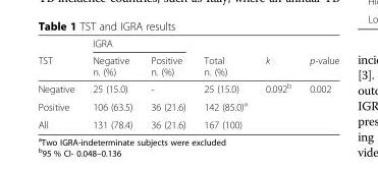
<table><thead><tr><td rowspan="2">TST</td><td colspan="2">IGRA</td><td rowspan="2">Total n. (%)</td><td rowspan="2">k</td><td rowspan="2">p-value</td></tr><tr><td>Negative n. (%)</td><td>Positive n. (%)</td></tr></thead><tbody><tr><td>Negative</td><td>25 (15.0)</td><td>-</td><td>25 (15.0)</td><td rowspan="2">0.092<sup>b</sup></td><td rowspan="2">0.002</td></tr><tr><td>Positive</td><td>106 (63.5)</td><td>36 (21.6)</td><td>142 (85.0)<sup>a</sup></td></tr><tr><td>All</td><td>131 (78.4)</td><td>36 (21.6)</td><td>167 (100)</td><td></td><td></td></tr></tbody></table>